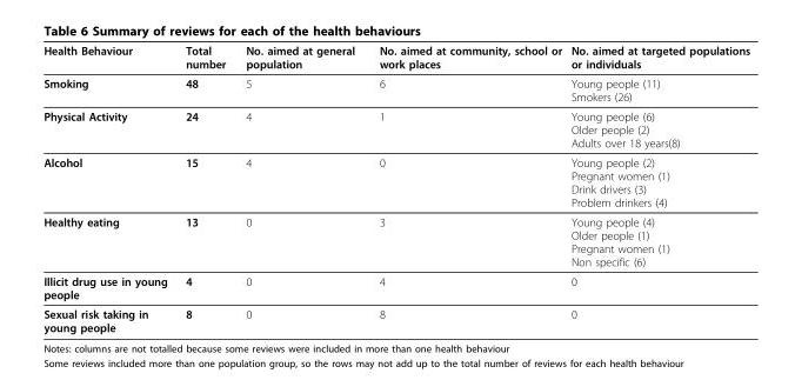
<table><thead><tr><td>Health Behaviour</td><td>Total number</td><td>No. aimed at general population</td><td>No. aimed at community, school or work places</td><td>No. aimed at targeted populations or individuals</td></tr></thead><tbody><tr><td>Smoking</td><td>48</td><td>5</td><td>6</td><td>Young people (11) Smokers (26)</td></tr><tr><td>Physical Activity</td><td>24</td><td>4</td><td>1</td><td>Young people (6) Older people (2) Adults over 18 years(8)</td></tr><tr><td>Alcohol</td><td>15</td><td>4</td><td>0</td><td>Young people (2) Pregnant women (1) Drink drivers (3) Problem drinkers (4)</td></tr><tr><td>Healthy eating</td><td>13</td><td>0</td><td>3</td><td>Young people (4) Older people (1) Pregnant women (1) Non specific (6)</td></tr><tr><td>Illicit drug use in young people</td><td>4</td><td>0</td><td>4</td><td>0</td></tr><tr><td>Sexual risk taking in young people</td><td>8</td><td>0</td><td>8</td><td>0</td></tr></tbody></table>